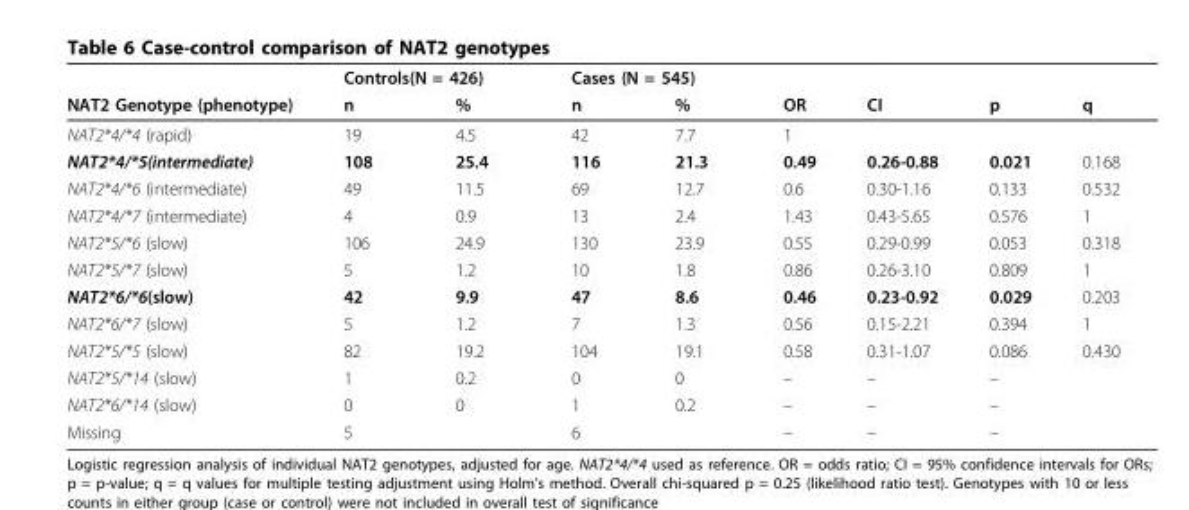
<table><thead><tr><td rowspan="2">NAT2 Genotype (phenotype)</td><td colspan="2">Controls(N = 426)</td><td colspan="2">Cases (N = 545)</td><td rowspan="2">OR</td><td rowspan="2">CI</td><td rowspan="2">p</td><td rowspan="2">q</td></tr><tr><td>n</td><td>%</td><td>n</td><td>%</td></tr></thead><tbody><tr><td>NAT2*4/*4 (rapid)</td><td>19</td><td>4.5</td><td>42</td><td>7.7</td><td>1</td><td></td><td></td><td></td></tr><tr><td>NAT2*4/*5(intermediate)</td><td>108</td><td>25.4</td><td>116</td><td>21.3</td><td>0.49</td><td>0.26-0.88</td><td>0.021</td><td>0.168</td></tr><tr><td>NAT2*4/*6 (intermediate)</td><td>49</td><td>11.5</td><td>69</td><td>12.7</td><td>0.6</td><td>0.30-1.16</td><td>0.133</td><td>0.532</td></tr><tr><td>NAT2*4/*7 (intermediate)</td><td>4</td><td>0.9</td><td>13</td><td>2.4</td><td>1.43</td><td>0.43-5.65</td><td>0.576</td><td>1</td></tr><tr><td>NAT2*5/*6 (slow)</td><td>106</td><td>24.9</td><td>130</td><td>23.9</td><td>0.55</td><td>0.29-0.99</td><td>0.053</td><td>0.318</td></tr><tr><td>NAT2*5/*7 (slow)</td><td>5</td><td>1.2</td><td>10</td><td>1.8</td><td>0.86</td><td>0.26-3.10</td><td>0.809</td><td>1</td></tr><tr><td>NAT2*6/*6(slow)</td><td>42</td><td>9.9</td><td>47</td><td>8.6</td><td>0.46</td><td>0.23-0.92</td><td>0.029</td><td>0.203</td></tr><tr><td>NAT2*6/*7 (slow)</td><td>5</td><td>1.2</td><td>7</td><td>1.3</td><td>0.56</td><td>0.15-2.21</td><td>0.394</td><td>1</td></tr><tr><td>NAT2*5/*5 (slow)</td><td>82</td><td>19.2</td><td>104</td><td>19.1</td><td>0.58</td><td>0.31-1.07</td><td>0.086</td><td>0.430</td></tr><tr><td>NAT2*5/*14 (slow)</td><td>1</td><td>0.2</td><td>0</td><td>0</td><td>–</td><td>–</td><td>–</td><td></td></tr><tr><td>NAT2*6/*14 (slow)</td><td>0</td><td>0</td><td>1</td><td>0.2</td><td>–</td><td>–</td><td>–</td><td></td></tr><tr><td>Missing</td><td>5</td><td></td><td>6</td><td></td><td>–</td><td>–</td><td>–</td><td></td></tr></tbody></table>